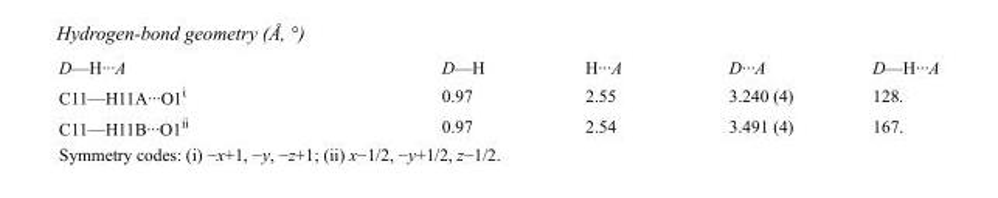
<table><tbody><tr><td>D—H···A</td><td>D—H</td><td>H···A</td><td>D···A</td><td>D—H···A</td></tr><tr><td>C11—H11A···O1<sup>i</sup></td><td>0.97</td><td>2.55</td><td>3.240 (4)</td><td>128.</td></tr><tr><td>C11—H11B···O1<sup>ii</sup></td><td>0.97</td><td>2.54</td><td>3.491 (4)</td><td>167.</td></tr></tbody></table>